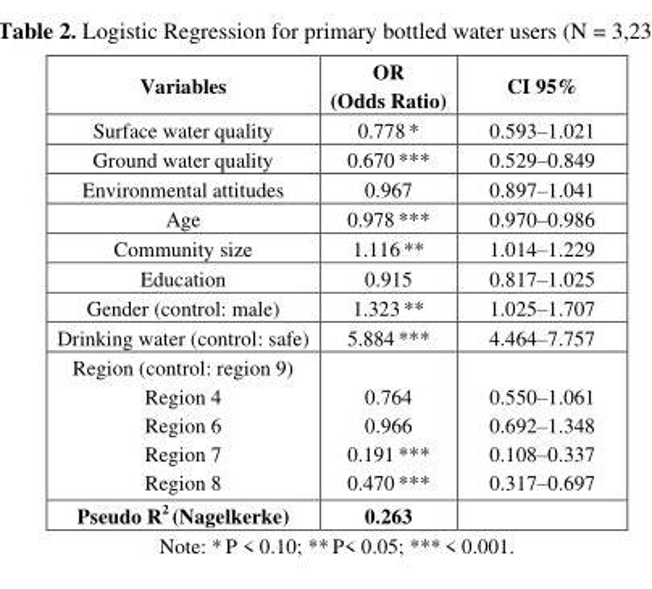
<table><thead><tr><td>Variables</td><td>OR (Odds Ratio)</td><td>CI 95%</td></tr></thead><tbody><tr><td>Surface water quality</td><td>0.778 *</td><td>0.593–1.021</td></tr><tr><td>Ground water quality</td><td>0.670 ***</td><td>0.529–0.849</td></tr><tr><td>Environmental attitudes</td><td>0.967</td><td>0.897–1.041</td></tr><tr><td>Age</td><td>0.978 ***</td><td>0.970–0.986</td></tr><tr><td>Community size</td><td>1.116 **</td><td>1.014–1.229</td></tr><tr><td>Education</td><td>0.915</td><td>0.817–1.025</td></tr><tr><td>Gender (control: male)</td><td>1.323 **</td><td>1.025–1.707</td></tr><tr><td>Drinking water (control: safe)</td><td>5.884 ***</td><td>4.464–7.757</td></tr><tr><td>Region (control: region 9) Region 4 Region 6 Region 7 Region 8</td><td>0.764 0.966 0.191 *** 0.470 ***</td><td>0.550–1.061 0.692–1.348 0.108–0.337 0.317–0.697</td></tr><tr><td>Pseudo R<sup>2</sup> (Nagelkerke)</td><td>0.263</td><td></td></tr></tbody></table>